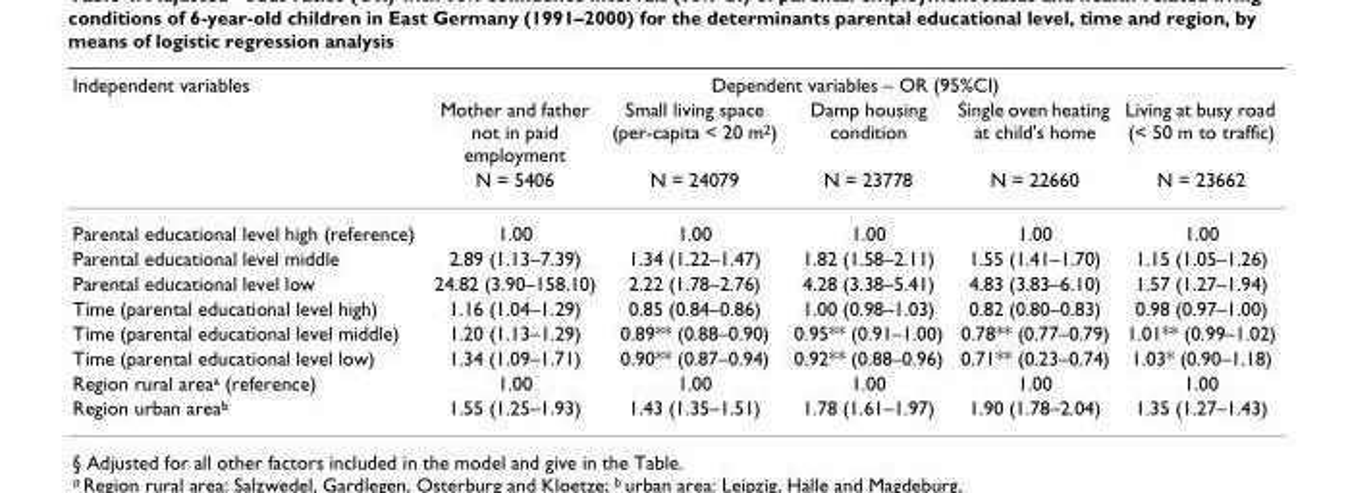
<table><thead><tr><td rowspan="3">Independent variables</td><td colspan="5">Dependent variables – OR (95%CI)</td></tr><tr><td rowspan="2">Mother and father not in paid employment N = 5406</td><td rowspan="2">Small living space (per-capita &lt; 20 m<sup>2</sup>) N = 24079</td><td rowspan="2">Damp housing condition N = 23778</td><td rowspan="2">Single oven heating at child&#x27;s home N = 22660</td><td rowspan="2">Living at busy road (&lt; 50 m to traffic) N = 23662</td></tr><tr></tr></thead><tbody><tr><td>Parental educational level high (reference)</td><td>1.00</td><td>1.00</td><td>1.00</td><td>1.00</td><td>1.00</td></tr><tr><td>Parental educational level middle</td><td>2.89 (1.13–7.39)</td><td>1.34 (1.22–1.47)</td><td>1.82 (1.58–2.11)</td><td>1.55 (1.41–1.70)</td><td>1.15 (1.05–1.26)</td></tr><tr><td>Parental educational level low</td><td>24.82 (3.90–158.10)</td><td>2.22 (1.78–2.76)</td><td>4.28 (3.38–5.41)</td><td>4.83 (3.83–6.10)</td><td>1.57 (1.27–1.94)</td></tr><tr><td>Time (parental educational level high)</td><td>1.16 (1.04–1.29)</td><td>0.85 (0.84–0.86)</td><td>1.00 (0.98–1.03)</td><td>0.82 (0.80–0.83)</td><td>0.98 (0.97–1.00)</td></tr><tr><td>Time (parental educational level middle)</td><td>1.20 (1.13–1.29)</td><td>0.89** (0.88–0.90)</td><td>0.95** (0.91–1.00)</td><td>0.78** (0.77–0.79)</td><td>1.01** (0.99–1.02)</td></tr><tr><td>Time (parental educational level low)</td><td>1.34 (1.09–1.71)</td><td>0.90** (0.87–0.94)</td><td>0.92** (0.88–0.96)</td><td>0.71** (0.23–0.74)</td><td>1.03* (0.90–1.18)</td></tr><tr><td>Region rural area<sup>a</sup> (reference)</td><td>1.00</td><td>1.00</td><td>1.00</td><td>1.00</td><td>1.00</td></tr><tr><td>Region urban area<sup>b</sup></td><td>1.55 (1.25–1.93)</td><td>1.43 (1.35–1.51)</td><td>1.78 (1.61–1.97)</td><td>1.90 (1.78–2.04)</td><td>1.35 (1.27–1.43)</td></tr></tbody></table>